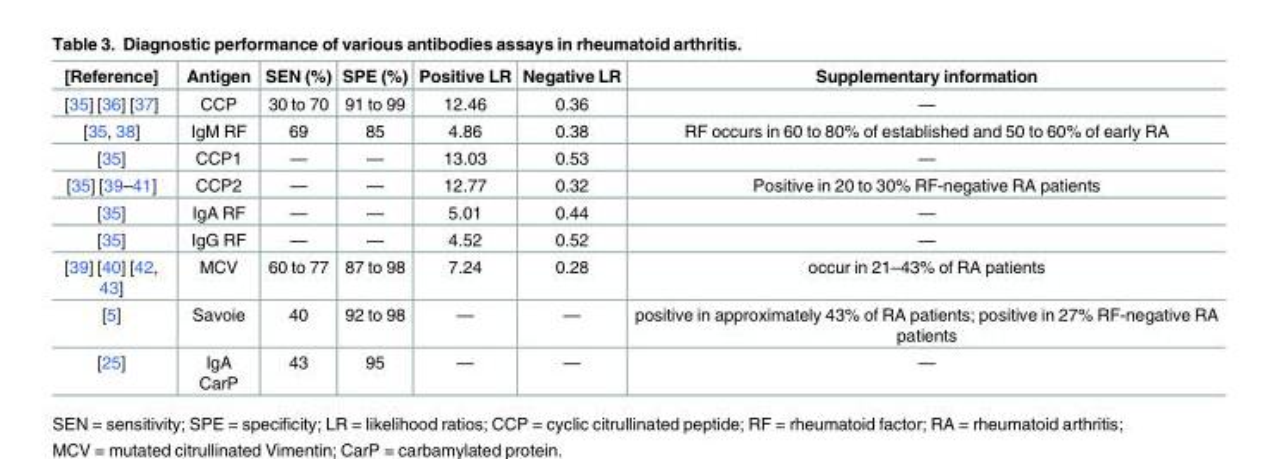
<table><thead><tr><td>[Reference]</td><td>Antigen</td><td>SEN (%)</td><td>SPE (%)</td><td>Positive LR</td><td>Negative LR</td><td>Supplementary information</td></tr></thead><tbody><tr><td>[35] [36] [37]</td><td>CCP</td><td>30 to 70</td><td>91 to 99</td><td>12.46</td><td>0.36</td><td>—</td></tr><tr><td>[35, 38]</td><td>IgM RF</td><td>69</td><td>85</td><td>4.86</td><td>0.38</td><td>RF occurs in 60 to 80% of established and 50 to 60% of early RA</td></tr><tr><td>[35]</td><td>CCP1</td><td>—</td><td>—</td><td>13.03</td><td>0.53</td><td>—</td></tr><tr><td>[35] [39–41]</td><td>CCP2</td><td>—</td><td>—</td><td>12.77</td><td>0.32</td><td>Positive in 20 to 30% RF-negative RA patients</td></tr><tr><td>[35]</td><td>IgA RF</td><td>—</td><td>—</td><td>5.01</td><td>0.44</td><td>—</td></tr><tr><td>[35]</td><td>IgG RF</td><td>—</td><td>—</td><td>4.52</td><td>0.52</td><td>—</td></tr><tr><td>[39] [40] [42, 43]</td><td>MCV</td><td>60 to 77</td><td>87 to 98</td><td>7.24</td><td>0.28</td><td>occur in 21–43% of RA patients</td></tr><tr><td>[5]</td><td>Savoie</td><td>40</td><td>92 to 98</td><td>—</td><td>—</td><td>positive in approximately 43% of RA patients; positive in 27% RF-negative RA patients</td></tr><tr><td>[25]</td><td>IgA CarP</td><td>43</td><td>95</td><td>—</td><td>—</td><td>—</td></tr></tbody></table>